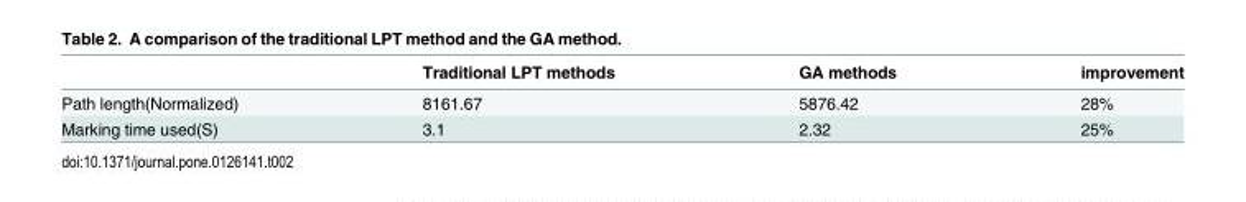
<table><thead><tr><td></td><td>Traditional LPT methods</td><td>GA methods</td><td>improvement</td></tr></thead><tbody><tr><td>Path length(Normalized)</td><td>8161.67</td><td>5876.42</td><td>28%</td></tr><tr><td>Marking time used(S)</td><td>3.1</td><td>2.32</td><td>25%</td></tr></tbody></table>